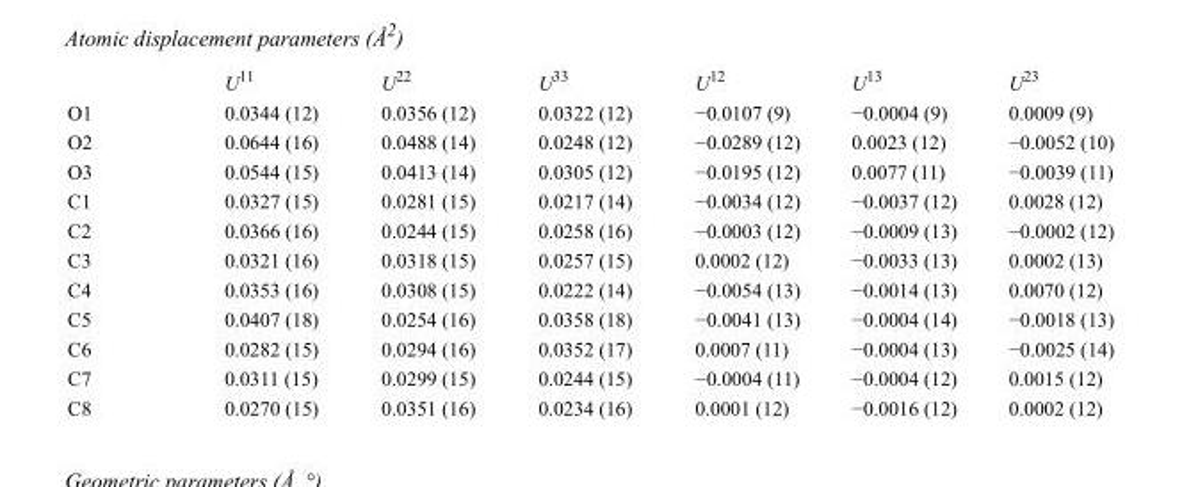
<table><thead><tr><td></td><td>U<sup>11</sup></td><td>U<sup>22</sup></td><td>U<sup>33</sup></td><td>U<sup>12</sup></td><td>U<sup>13</sup></td><td>U<sup>23</sup></td></tr></thead><tbody><tr><td>O1</td><td>0.0344 (12)</td><td>0.0356 (12)</td><td>0.0322 (12)</td><td>−0.0107 (9)</td><td>−0.0004 (9)</td><td>0.0009 (9)</td></tr><tr><td>O2</td><td>0.0644 (16)</td><td>0.0488 (14)</td><td>0.0248 (12)</td><td>−0.0289 (12)</td><td>0.0023 (12)</td><td>−0.0052 (10)</td></tr><tr><td>O3</td><td>0.0544 (15)</td><td>0.0413 (14)</td><td>0.0305 (12)</td><td>−0.0195 (12)</td><td>0.0077 (11)</td><td>−0.0039 (11)</td></tr><tr><td>C1</td><td>0.0327 (15)</td><td>0.0281 (15)</td><td>0.0217 (14)</td><td>−0.0034 (12)</td><td>−0.0037 (12)</td><td>0.0028 (12)</td></tr><tr><td>C2</td><td>0.0366 (16)</td><td>0.0244 (15)</td><td>0.0258 (16)</td><td>−0.0003 (12)</td><td>−0.0009 (13)</td><td>−0.0002 (12)</td></tr><tr><td>C3</td><td>0.0321 (16)</td><td>0.0318 (15)</td><td>0.0257 (15)</td><td>0.0002 (12)</td><td>−0.0033 (13)</td><td>0.0002 (13)</td></tr><tr><td>C4</td><td>0.0353 (16)</td><td>0.0308 (15)</td><td>0.0222 (14)</td><td>−0.0054 (13)</td><td>−0.0014 (13)</td><td>0.0070 (12)</td></tr><tr><td>C5</td><td>0.0407 (18)</td><td>0.0254 (16)</td><td>0.0358 (18)</td><td>−0.0041 (13)</td><td>−0.0004 (14)</td><td>−0.0018 (13)</td></tr><tr><td>C6</td><td>0.0282 (15)</td><td>0.0294 (16)</td><td>0.0352 (17)</td><td>0.0007 (11)</td><td>−0.0004 (13)</td><td>−0.0025 (14)</td></tr><tr><td>C7</td><td>0.0311 (15)</td><td>0.0299 (15)</td><td>0.0244 (15)</td><td>−0.0004 (11)</td><td>−0.0004 (12)</td><td>0.0015 (12)</td></tr><tr><td>C8</td><td>0.0270 (15)</td><td>0.0351 (16)</td><td>0.0234 (16)</td><td>0.0001 (12)</td><td>−0.0016 (12)</td><td>0.0002 (12)</td></tr></tbody></table>